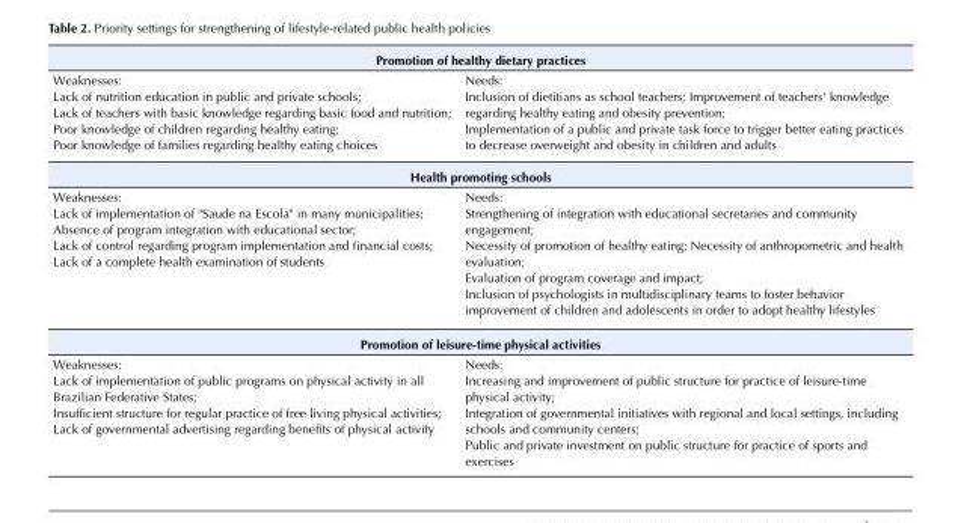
<table><tbody><tr><td colspan="2">Promotion of healthy dietary practices</td></tr><tr><td>Weaknesses: Lack of nutrition education in public and private schools; Lack of teachers with basic knowledge regarding basic food and nutrition; Poor knowledge of children regarding healthy eating; Poor knowledge of families regarding healthy eating choices</td><td>Needs: Inclusion of dietitians as school teachers; Improvement of teachers&#x27; knowledge regarding healthy eating and obesity prevention; Implementation of a public and private task force to trigger better eating practices to decrease overweight and obesity in children and adults</td></tr><tr><td colspan="2">Health promoting schools</td></tr><tr><td>Weaknesses: Lack of implementation of &quot;Saude na Escola&quot; in many municipalities; Absence of program integration with educational sector; Lack of control regarding program implementation and financial costs; Lack of a complete health examination of students</td><td>Needs: Strengthening of integration with educational secretaries and community engagement; Necessity of promotion of healthy eating; Necessity of anthropometric and health evaluation; Evaluation of program coverage and impact; Inclusion of psychologists in multidisciplinary teams to foster behavior improvement of children and adolescents in order to adopt healthy lifestyles</td></tr><tr><td colspan="2">Promotion of leisure-time physical activities</td></tr><tr><td>Weaknesses: Lack of implementation of public programs on physical activity in all Brazilian Federative States; Insufficient structure for regular practice of free living physical activities; Lack of governmental advertising regarding benefits of physical activity</td><td>Needs: Increasing and improvement of public structure for practice of leisure-time physical activity; Integration of governmental initiatives with regional and local settings, including schools and community centers; Public and private investment on public structure for practice of sports and exercises</td></tr></tbody></table>